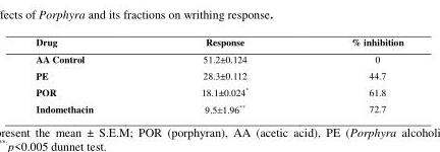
<table><tbody><tr><td>Drug</td><td>Response</td><td>% inhibition</td></tr><tr><td>AA Control</td><td>51.2±0.124</td><td>0</td></tr><tr><td>PE</td><td>28.3±0.112</td><td>44.7</td></tr><tr><td>POR</td><td>18.1±0.024*</td><td>61.8</td></tr><tr><td>Indomethacin</td><td>9.51.96**</td><td>72.7</td></tr></tbody></table>